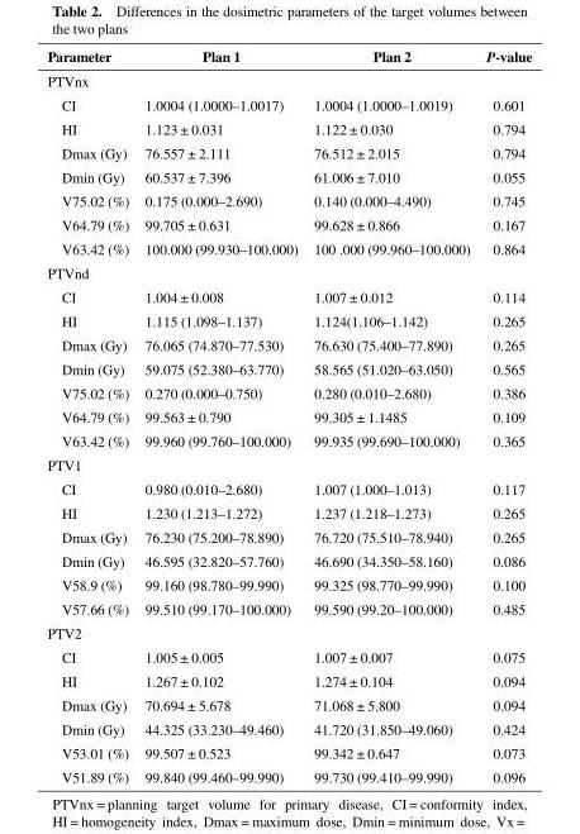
<table><thead><tr><td>Parameter</td><td>Plan 1</td><td>Plan 2</td><td>P-value</td></tr></thead><tbody><tr><td colspan="4">PTVnx</td></tr><tr><td>CI</td><td>1.0004 (1.0000–1.0017)</td><td>1.0004 (1.0000–1.0019)</td><td>0.601</td></tr><tr><td>HI</td><td>1.123 ± 0.031</td><td>1.122 ± 0.030</td><td>0.794</td></tr><tr><td>Dmax (Gy)</td><td>76.557 ± 2.111</td><td>76.512 ± 2.015</td><td>0.794</td></tr><tr><td>Dmin (Gy)</td><td>60.537 ± 7.396</td><td>61.006 ± 7.010</td><td>0.055</td></tr><tr><td>V75.02 (%)</td><td>0.175 (0.000–2.690)</td><td>0.140 (0.000–4.490)</td><td>0.745</td></tr><tr><td>V64.79 (%)</td><td>99.705 ± 0.631</td><td>99.628 ± 0.866</td><td>0.167</td></tr><tr><td>V63.42 (%)</td><td>100.000 (99.930–100.000)</td><td>100 .000 (99.960–100.000)</td><td>0.864</td></tr><tr><td colspan="4">PTVnd</td></tr><tr><td>CI</td><td>1.004 ± 0.008</td><td>1.007 ± 0.012</td><td>0.114</td></tr><tr><td>HI</td><td>1.115 (1.098–1.137)</td><td>1.124(1.106–1.142)</td><td>0.265</td></tr><tr><td>Dmax (Gy)</td><td>76.065 (74.870–77.530)</td><td>76.630 (75.400–77.890)</td><td>0.265</td></tr><tr><td>Dmin (Gy)</td><td>59.075 (52.380–63.770)</td><td>58.565 (51.020–63.050)</td><td>0.565</td></tr><tr><td>V75.02 (%)</td><td>0.270 (0.000–0.750)</td><td>0.280 (0.010–2.680)</td><td>0.386</td></tr><tr><td>V64.79 (%)</td><td>99.563 ± 0.790</td><td>99.305 ± 1.1485</td><td>0.109</td></tr><tr><td>V63.42 (%)</td><td>99.960 (99.760–100.000)</td><td>99.935 (99.690–100.000)</td><td>0.365</td></tr><tr><td colspan="4">PTV1</td></tr><tr><td>CI</td><td>0.980 (0.010–2.680)</td><td>1.007 (1.000–1.013)</td><td>0.117</td></tr><tr><td>HI</td><td>1.230 (1.213–1.272)</td><td>1.237 (1.218–1.273)</td><td>0.265</td></tr><tr><td>Dmax (Gy)</td><td>76.230 (75.200–78.890)</td><td>76.720 (75.510–78.940)</td><td>0.265</td></tr><tr><td>Dmin (Gy)</td><td>46.595 (32.820–57.760)</td><td>46.690 (34.350–58.160)</td><td>0.086</td></tr><tr><td>V58.9 (%)</td><td>99.160 (98.780–99.990)</td><td>99.325 (98.770–99.990)</td><td>0.100</td></tr><tr><td>V57.66 (%)</td><td>99.510 (99.170–100.000)</td><td>99.590 (99.20–100.000)</td><td>0.485</td></tr><tr><td colspan="4">PTV2</td></tr><tr><td>CI</td><td>1.005 ± 0.005</td><td>1.007 ± 0.007</td><td>0.075</td></tr><tr><td>HI</td><td>1.267 ± 0.102</td><td>1.274 ± 0.104</td><td>0.094</td></tr><tr><td>Dmax (Gy)</td><td>70.694 ± 5.678</td><td>71.068 ± 5.800</td><td>0.094</td></tr><tr><td>Dmin (Gy)</td><td>44.325 (33.230–49.460)</td><td>41.720 (31.850–49.060)</td><td>0.424</td></tr><tr><td>V53.01 (%)</td><td>99.507 ± 0.523</td><td>99.342 ± 0.647</td><td>0.073</td></tr><tr><td>V51.89 (%)</td><td>99.840 (99.460–99.990)</td><td>99.730 (99.410–99.990)</td><td>0.096</td></tr></tbody></table>